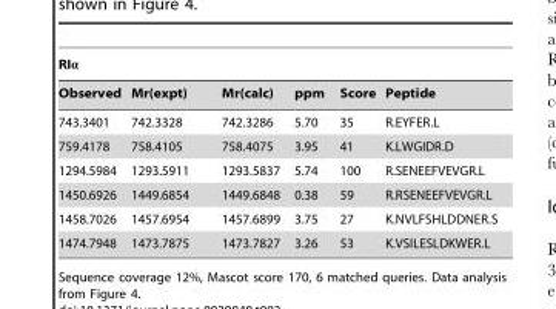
<table><thead><tr><td colspan="6">RIα</td></tr><tr><td>Observed</td><td>Mr(expt)</td><td>Mr(calc)</td><td>ppm</td><td>Score</td><td>Peptide</td></tr></thead><tbody><tr><td>743.3401</td><td>742.3328</td><td>742.3286</td><td>5.70</td><td>35</td><td>R.EYFER.L</td></tr><tr><td>759.4178</td><td>758.4105</td><td>758.4075</td><td>3.95</td><td>41</td><td>K.LWGIDR.D</td></tr><tr><td>1294.5984</td><td>1293.5911</td><td>1293.5837</td><td>5.74</td><td>100</td><td>R.SENEEFVEVGR.L</td></tr><tr><td>1450.6926</td><td>1449.6854</td><td>1449.6848</td><td>0.38</td><td>59</td><td>R.RSENEEFVEVGR.L</td></tr><tr><td>1458.7026</td><td>1457.6954</td><td>1457.6899</td><td>3.75</td><td>27</td><td>K.NVLFSHLDDNER.S</td></tr><tr><td>1474.7948</td><td>1473.7875</td><td>1473.7827</td><td>3.26</td><td>53</td><td>K.VSILESLDKWER.L</td></tr></tbody></table>